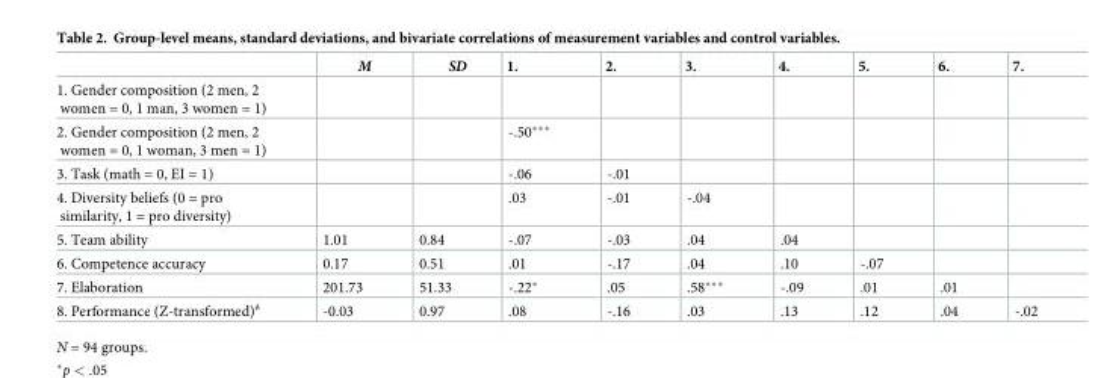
<table><thead><tr><td></td><td>M</td><td>SD</td><td>1.</td><td>2.</td><td>3.</td><td>4.</td><td>5.</td><td>6.</td><td>7.</td></tr></thead><tbody><tr><td colspan="10">1. Gender composition (2 men, 2 women = 0, 1 man, 3 women = 1)</td></tr><tr><td>2. Gender composition (2 men, 2 women = 0, 1 woman, 3 men = 1)</td><td></td><td></td><td>-.50***</td><td></td><td></td><td></td><td></td><td></td><td></td></tr><tr><td>3. Task (math = 0, EI = 1)</td><td></td><td></td><td>-.06</td><td>-.01</td><td></td><td></td><td></td><td></td><td></td></tr><tr><td>4. Diversity beliefs (0 = pro similarity, 1 = pro diversity)</td><td></td><td></td><td>.03</td><td>-.01</td><td>-.04</td><td></td><td></td><td></td><td></td></tr><tr><td>5. Team ability</td><td>1.01</td><td>0.84</td><td>-.07</td><td>-.03</td><td>.04</td><td>.04</td><td></td><td></td><td></td></tr><tr><td>6. Competence accuracy</td><td>0.17</td><td>0.51</td><td>.01</td><td>-.17</td><td>.04</td><td>.10</td><td>-.07</td><td></td><td></td></tr><tr><td>7. Elaboration</td><td>201.73</td><td>51.33</td><td>-.22*</td><td>.05</td><td>.58***</td><td>-.09</td><td>.01</td><td>.01</td><td></td></tr><tr><td>8. Performance (Z-transformed)<sup>a</sup></td><td>-0.03</td><td>0.97</td><td>.08</td><td>-.16</td><td>.03</td><td>.13</td><td>.12</td><td>.04</td><td>-.02</td></tr></tbody></table>